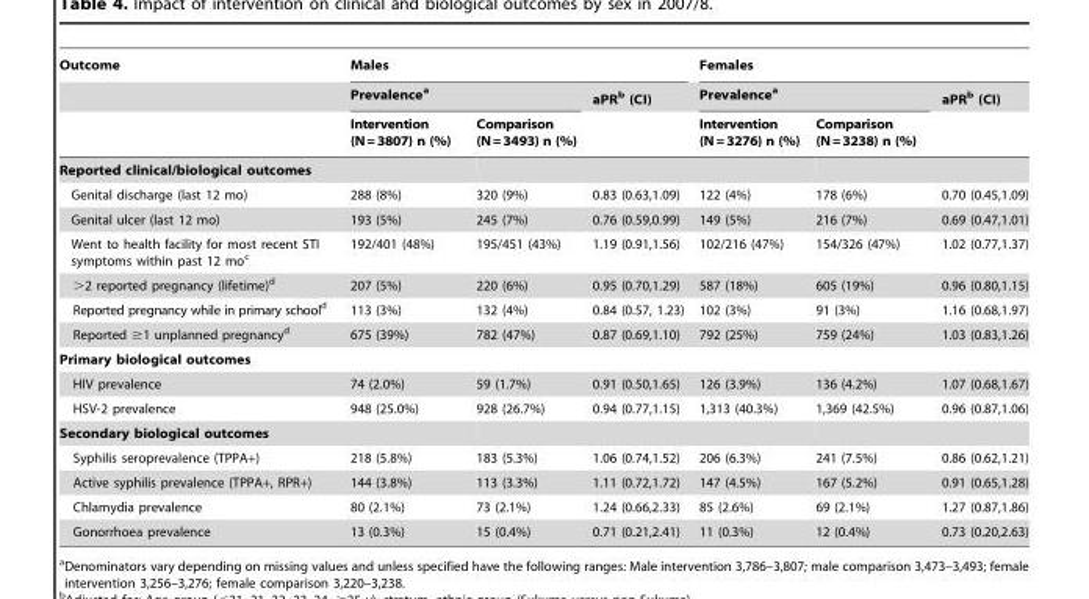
<table><thead><tr><td rowspan="3">Outcome</td><td colspan="3">Males</td><td colspan="3">Females</td></tr><tr><td colspan="2">Prevalence<sup>a</sup></td><td rowspan="2">aPR<sup>b</sup> (CI)</td><td colspan="2">Prevalence<sup>a</sup></td><td rowspan="2">aPR<sup>b</sup> (CI)</td></tr><tr><td>Intervention (N=3807) n (%)</td><td>Comparison (N=3493) n (%)</td><td>Intervention (N=3276) n (%)</td><td>Comparison (N=3238) n (%)</td></tr></thead><tbody><tr><td colspan="7">Reported clinical/biological outcomes</td></tr><tr><td>Genital discharge (last 12 mo)</td><td>288 (8%)</td><td>320 (9%)</td><td>0.83 (0.63,1.09)</td><td>122 (4%)</td><td>178 (6%)</td><td>0.70 (0.45,1.09)</td></tr><tr><td>Genital ulcer (last 12 mo)</td><td>193 (5%)</td><td>245 (7%)</td><td>0.76 (0.59,0.99)</td><td>149 (5%)</td><td>216 (7%)</td><td>0.69 (0.47,1.01)</td></tr><tr><td>Went to health facility for most recent STI symptoms within past 12 mo<sup>c</sup></td><td>192/401 (48%)</td><td>195/451 (43%)</td><td>1.19 (0.91,1.56)</td><td>102/216 (47%)</td><td>154/326 (47%)</td><td>1.02 (0.77,1.37)</td></tr><tr><td>&gt;2 reported pregnancy (lifetime)<sup>d</sup></td><td>207 (5%)</td><td>220 (6%)</td><td>0.95 (0.70,1.29)</td><td>587 (18%)</td><td>605 (19%)</td><td>0.96 (0.80,1.15)</td></tr><tr><td>Reported pregnancy while in primary school<sup>d</sup></td><td>113 (3%)</td><td>132 (4%)</td><td>0.84 (0.57, 1.23)</td><td>102 (3%)</td><td>91 (3%)</td><td>1.16 (0.68,1.97)</td></tr><tr><td>Reported ≥1 unplanned pregnancy<sup>d</sup></td><td>675 (39%)</td><td>782 (47%)</td><td>0.87 (0.69,1.10)</td><td>792 (25%)</td><td>759 (24%)</td><td>1.03 (0.83,1.26)</td></tr><tr><td colspan="7">Primary biological outcomes</td></tr><tr><td>HIV prevalence</td><td>74 (2.0%)</td><td>59 (1.7%)</td><td>0.91 (0.50,1.65)</td><td>126 (3.9%)</td><td>136 (4.2%)</td><td>1.07 (0.68,1.67)</td></tr><tr><td>HSV-2 prevalence</td><td>948 (25.0%)</td><td>928 (26.7%)</td><td>0.94 (0.77,1.15)</td><td>1,313 (40.3%)</td><td>1,369 (42.5%)</td><td>0.96 (0.87,1.06)</td></tr><tr><td colspan="7">Secondary biological outcomes</td></tr><tr><td>Syphilis seroprevalence (TPPA+)</td><td>218 (5.8%)</td><td>183 (5.3%)</td><td>1.06 (0.74,1.52)</td><td>206 (6.3%)</td><td>241 (7.5%)</td><td>0.86 (0.62,1.21)</td></tr><tr><td>Active syphilis prevalence (TPPA+, RPR+)</td><td>144 (3.8%)</td><td>113 (3.3%)</td><td>1.11 (0.72,1.72)</td><td>147 (4.5%)</td><td>167 (5.2%)</td><td>0.91 (0.65,1.28)</td></tr><tr><td>Chlamydia prevalence</td><td>80 (2.1%)</td><td>73 (2.1%)</td><td>1.24 (0.66,2.33)</td><td>85 (2.6%)</td><td>69 (2.1%)</td><td>1.27 (0.87,1.86)</td></tr><tr><td>Gonorrhoea prevalence</td><td>13 (0.3%)</td><td>15 (0.4%)</td><td>0.71 (0.21,2.41)</td><td>11 (0.3%)</td><td>12 (0.4%)</td><td>0.73 (0.20,2.63)</td></tr></tbody></table>